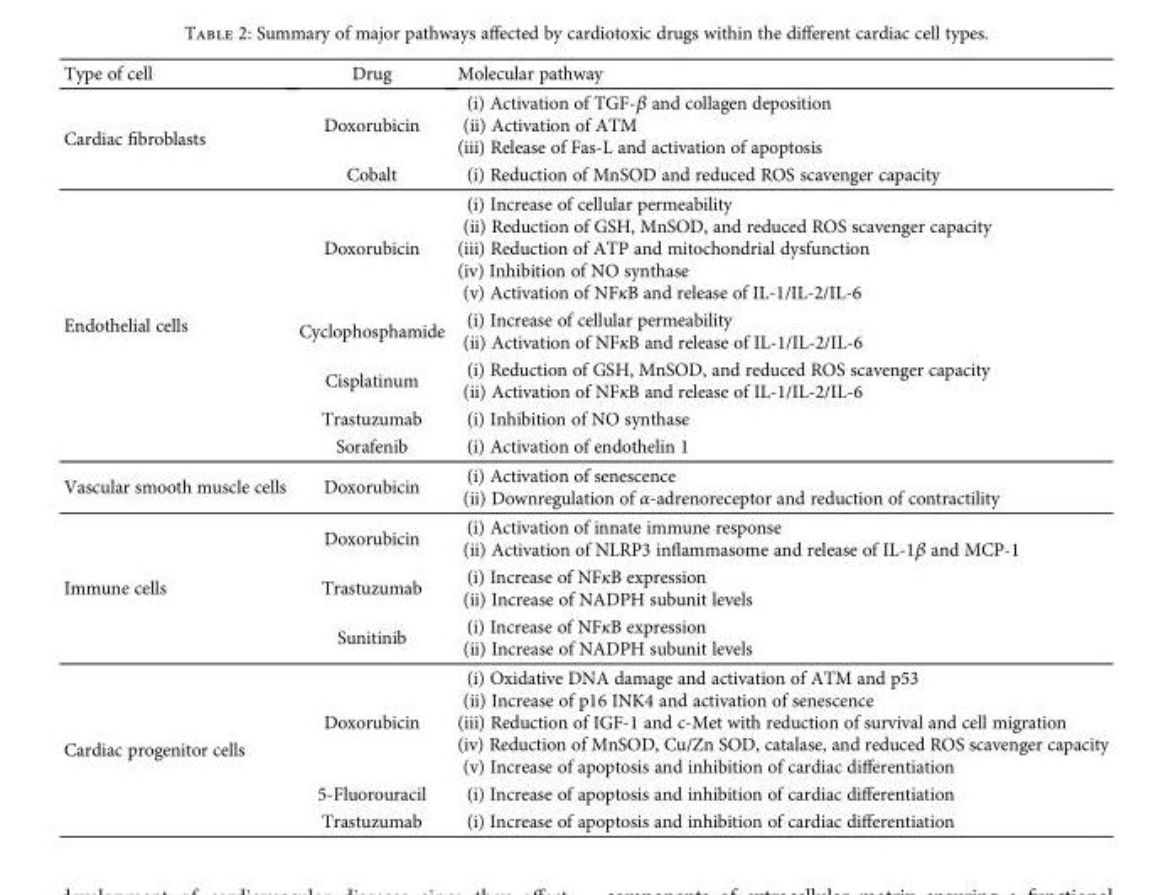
<table><thead><tr><td>Type of cell</td><td>Drug</td><td>Molecular pathway</td></tr></thead><tbody><tr><td rowspan="2">Cardiac fibroblasts</td><td>Doxorubicin</td><td>(i) Activation of TGF-β and collagen deposition (ii) Activation of ATM (iii) Release of Fas-L and activation of apoptosis</td></tr><tr><td>Cobalt</td><td>(i) Reduction of MnSOD and reduced ROS scavenger capacity</td></tr><tr><td rowspan="5">Endothelial cells</td><td>Doxorubicin</td><td>(i) Increase of cellular permeability (ii) Reduction of GSH, MnSOD, and reduced ROS scavenger capacity (iii) Reduction of ATP and mitochondrial dysfunction (iv) Inhibition of NO synthase (v) Activation of NFκB and release of IL-1/IL-2/IL-6</td></tr><tr><td>Cyclophosphamide</td><td>(i) Increase of cellular permeability (ii) Activation of NFκB and release of IL-1/IL-2/IL-6</td></tr><tr><td>Cisplatinum</td><td>(i) Reduction of GSH, MnSOD, and reduced ROS scavenger capacity (ii) Activation of NFκB and release of IL-1/IL-2/IL-6</td></tr><tr><td>Trastuzumab</td><td>(i) Inhibition of NO synthase</td></tr><tr><td>Sorafenib</td><td>(i) Activation of endothelin 1</td></tr><tr><td>Vascular smooth muscle cells</td><td>Doxorubicin</td><td>(i) Activation of senescence (ii) Downregulation of α-adrenoreceptor and reduction of contractility</td></tr><tr><td rowspan="3">Immune cells</td><td>Doxorubicin</td><td>(i) Activation of innate immune response (ii) Activation of NLRP3 inflammasome and release of IL-1β and MCP-1</td></tr><tr><td>Trastuzumab</td><td>(i) Increase of NFκB expression (ii) Increase of NADPH subunit levels</td></tr><tr><td>Sunitinib</td><td>(i) Increase of NFκB expression (ii) Increase of NADPH subunit levels</td></tr><tr><td rowspan="3">Cardiac progenitor cells</td><td>Doxorubicin</td><td>(i) Oxidative DNA damage and activation of ATM and p53 (ii) Increase of p16 INK4 and activation of senescence (iii) Reduction of IGF-1 and c-Met with reduction of survival and cell migration (iv) Reduction of MnSOD, Cu/Zn SOD, catalase, and reduced ROS scavenger capacity (v) Increase of apoptosis and inhibition of cardiac differentiation</td></tr><tr><td>5-Fluorouracil</td><td>(i) Increase of apoptosis and inhibition of cardiac differentiation</td></tr><tr><td>Trastuzumab</td><td>(i) Increase of apoptosis and inhibition of cardiac differentiation</td></tr></tbody></table>